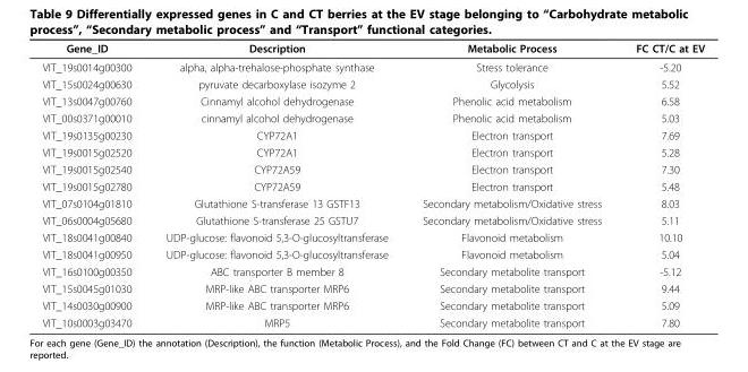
<table><thead><tr><td>Gene_ID</td><td>Description</td><td>Metabolic Process</td><td>FC CT/C at EV</td></tr></thead><tbody><tr><td>VIT_19s0014g00300</td><td>alpha, alpha-trehalose-phosphate synthase</td><td>Stress tolerance</td><td>-5.20</td></tr><tr><td>VIT_15s0024g00630</td><td>pyruvate decarboxylase isozyme 2</td><td>Glycolysis</td><td>5.52</td></tr><tr><td>VIT_13s0047g00760</td><td>Cinnamyl alcohol dehydrogenase</td><td>Phenolic acid metabolism</td><td>6.58</td></tr><tr><td>VIT_00s0371g00010</td><td>cinnamyl alcohol dehydrogenase</td><td>Phenolic acid metabolism</td><td>5.03</td></tr><tr><td>VIT_19s0135g00230</td><td>CYP72A1</td><td>Electron transport</td><td>7.69</td></tr><tr><td>VIT_19s0015g02520</td><td>CYP72A1</td><td>Electron transport</td><td>5.28</td></tr><tr><td>VIT_19s0015g02540</td><td>CYP72A59</td><td>Electron transport</td><td>7.30</td></tr><tr><td>VIT_19s0015g02780</td><td>CYP72A59</td><td>Electron transport</td><td>5.48</td></tr><tr><td>VIT_07s0104g01810</td><td>Glutathione S-transferase 13 GSTF13</td><td>Secondary metabolism/Oxidative stress</td><td>8.03</td></tr><tr><td>VIT_06s0004g05680</td><td>Glutathione S-transferase 25 GSTU7</td><td>Secondary metabolism/Oxidative stress</td><td>5.11</td></tr><tr><td>VIT_18s0041g00840</td><td>UDP-glucose: flavonoid 5,3-O-glucosyltransferase</td><td>Flavonoid metabolism</td><td>10.10</td></tr><tr><td>VIT_18s0041g00950</td><td>UDP-glucose: flavonoid 5,3-O-glucosyltransferase</td><td>Flavonoid metabolism</td><td>5.04</td></tr><tr><td>VIT_16s0100g00350</td><td>ABC transporter B member 8</td><td>Secondary metabolite transport</td><td>-5.12</td></tr><tr><td>VIT_15s0045g01030</td><td>MRP-like ABC transporter MRP6</td><td>Secondary metabolite transport</td><td>9.44</td></tr><tr><td>VIT_14s0030g00900</td><td>MRP-like ABC transporter MRP6</td><td>Secondary metabolite transport</td><td>5.09</td></tr><tr><td>VIT_10s0003g03470</td><td>MRP5</td><td>Secondary metabolite transport</td><td>7.80</td></tr></tbody></table>